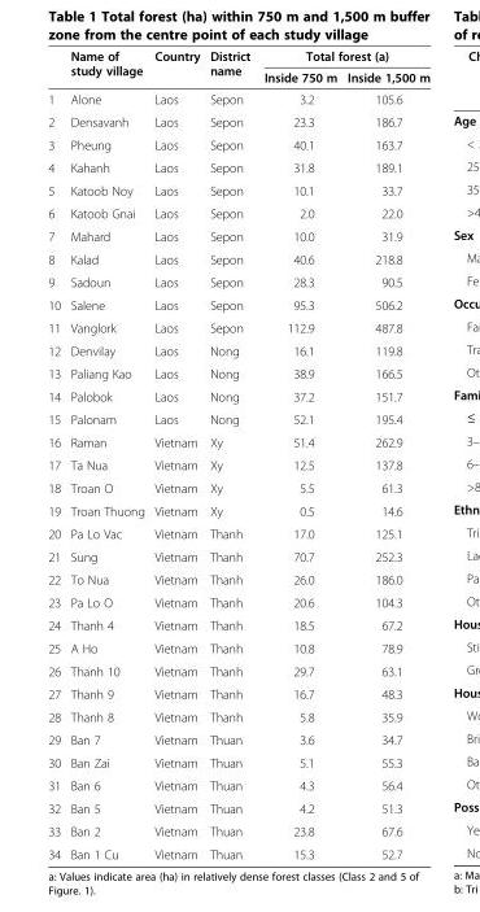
<table><thead><tr><td rowspan="2"></td><td rowspan="2">Name of study village</td><td rowspan="2">Country</td><td rowspan="2">District name</td><td colspan="2">Total forest (a)</td></tr><tr><td>Inside 750 m</td><td>Inside 1,500 m</td></tr></thead><tbody><tr><td>1</td><td>Alone</td><td>Laos</td><td>Sepon</td><td>3.2</td><td>105.6</td></tr><tr><td>2</td><td>Densavanh</td><td>Laos</td><td>Sepon</td><td>23.3</td><td>186.7</td></tr><tr><td>3</td><td>Pheung</td><td>Laos</td><td>Sepon</td><td>40.1</td><td>163.7</td></tr><tr><td>4</td><td>Kahanh</td><td>Laos</td><td>Sepon</td><td>31.8</td><td>189.1</td></tr><tr><td>5</td><td>Katoob Noy</td><td>Laos</td><td>Sepon</td><td>10.1</td><td>33.7</td></tr><tr><td>6</td><td>Katoob Gnai</td><td>Laos</td><td>Sepon</td><td>2.0</td><td>22.0</td></tr><tr><td>7</td><td>Mahard</td><td>Laos</td><td>Sepon</td><td>10.0</td><td>31.9</td></tr><tr><td>8</td><td>Kalad</td><td>Laos</td><td>Sepon</td><td>40.6</td><td>218.8</td></tr><tr><td>9</td><td>Sadoun</td><td>Laos</td><td>Sepon</td><td>28.3</td><td>90.5</td></tr><tr><td>10</td><td>Salene</td><td>Laos</td><td>Sepon</td><td>95.3</td><td>506.2</td></tr><tr><td>11</td><td>Vanglork</td><td>Laos</td><td>Sepon</td><td>112.9</td><td>487.8</td></tr><tr><td>12</td><td>Denvilay</td><td>Laos</td><td>Nong</td><td>16.1</td><td>119.8</td></tr><tr><td>13</td><td>Paliang Kao</td><td>Laos</td><td>Nong</td><td>38.9</td><td>166.5</td></tr><tr><td>14</td><td>Palobok</td><td>Laos</td><td>Nong</td><td>37.2</td><td>151.7</td></tr><tr><td>15</td><td>Palonam</td><td>Laos</td><td>Nong</td><td>52.1</td><td>195.4</td></tr><tr><td>16</td><td>Raman</td><td>Vietnam</td><td>Xy</td><td>51.4</td><td>262.9</td></tr><tr><td>17</td><td>Ta Nua</td><td>Vietnam</td><td>Xy</td><td>12.5</td><td>137.8</td></tr><tr><td>18</td><td>Troan O</td><td>Vietnam</td><td>Xy</td><td>5.5</td><td>61.3</td></tr><tr><td>19</td><td>Troan Thuong</td><td>Vietnam</td><td>Xy</td><td>0.5</td><td>14.6</td></tr><tr><td>20</td><td>Pa Lo Vac</td><td>Vietnam</td><td>Thanh</td><td>17.0</td><td>125.1</td></tr><tr><td>21</td><td>Sung</td><td>Vietnam</td><td>Thanh</td><td>70.7</td><td>252.3</td></tr><tr><td>22</td><td>To Nua</td><td>Vietnam</td><td>Thanh</td><td>26.0</td><td>186.0</td></tr><tr><td>23</td><td>Pa Lo O</td><td>Vietnam</td><td>Thanh</td><td>20.6</td><td>104.3</td></tr><tr><td>24</td><td>Thanh 4</td><td>Vietnam</td><td>Thanh</td><td>18.5</td><td>67.2</td></tr><tr><td>25</td><td>A Ho</td><td>Vietnam</td><td>Thanh</td><td>10.8</td><td>78.9</td></tr><tr><td>26</td><td>Thanh 10</td><td>Vietnam</td><td>Thanh</td><td>29.7</td><td>63.1</td></tr><tr><td>27</td><td>Thanh 9</td><td>Vietnam</td><td>Thanh</td><td>16.7</td><td>48.3</td></tr><tr><td>28</td><td>Thanh 8</td><td>Vietnam</td><td>Thanh</td><td>5.8</td><td>35.9</td></tr><tr><td>29</td><td>Ban 7</td><td>Vietnam</td><td>Thuan</td><td>3.6</td><td>34.7</td></tr><tr><td>30</td><td>Ban Zai</td><td>Vietnam</td><td>Thuan</td><td>5.1</td><td>55.3</td></tr><tr><td>31</td><td>Ban 6</td><td>Vietnam</td><td>Thuan</td><td>4.3</td><td>56.4</td></tr><tr><td>32</td><td>Ban 5</td><td>Vietnam</td><td>Thuan</td><td>4.2</td><td>51.3</td></tr><tr><td>33</td><td>Ban 2</td><td>Vietnam</td><td>Thuan</td><td>23.8</td><td>67.6</td></tr><tr><td>34</td><td>Ban 1 Cu</td><td>Vietnam</td><td>Thuan</td><td>15.3</td><td>52.7</td></tr></tbody></table>